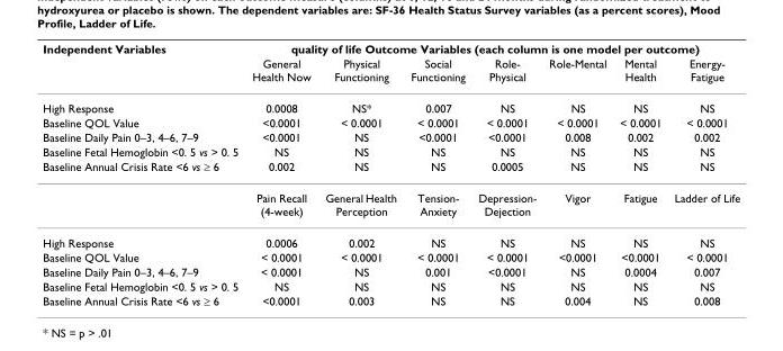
<table><thead><tr><td rowspan="2">Independent Variables</td><td colspan="7">quality of life Outcome Variables (each column is one model per outcome)</td></tr><tr><td>General Health Now</td><td>Physical Functioning</td><td>Social Functioning</td><td>Role- Physical</td><td>Role-Mental</td><td>Mental Health</td><td>Energy- Fatigue</td></tr></thead><tbody><tr><td>High Response</td><td>0.0008</td><td>NS*</td><td>0.007</td><td>NS</td><td>NS</td><td>NS</td><td>NS</td></tr><tr><td>Baseline QOL Value</td><td>&lt;0.0001</td><td>&lt; 0.0001</td><td>&lt; 0.0001</td><td>&lt; 0.0001</td><td>&lt; 0.0001</td><td>&lt; 0.0001</td><td>&lt; 0.0001</td></tr><tr><td>Baseline Daily Pain 0–3, 4–6, 7–9</td><td>&lt;0.0001</td><td>NS</td><td>&lt;0.0001</td><td>&lt;0.0001</td><td>0.008</td><td>0.002</td><td>0.002</td></tr><tr><td>Baseline Fetal Hemoglobin &lt;0. 5 vs &gt; 0. 5</td><td>NS</td><td>NS</td><td>NS</td><td>NS</td><td>NS</td><td>NS</td><td>NS</td></tr><tr><td rowspan="2">Baseline Annual Crisis Rate &lt;6 vs ≥ 6</td><td>0.002</td><td>NS</td><td>NS</td><td>0.0005</td><td>NS</td><td>NS</td><td>NS</td></tr><tr><td>Pain Recall (4-week)</td><td>General Health Perception</td><td>Tension- Anxiety</td><td>Depression- Dejection</td><td>Vigor</td><td>Fatigue</td><td>Ladder of Life</td></tr><tr><td>High Response</td><td>0.0006</td><td>0.002</td><td>NS</td><td>NS</td><td>NS</td><td>NS</td><td>NS</td></tr><tr><td>Baseline QOL Value</td><td>&lt; 0.0001</td><td>&lt; 0.0001</td><td>&lt; 0.0001</td><td>&lt; 0.0001</td><td>&lt;0.0001</td><td>&lt;0.0001</td><td>&lt; 0.0001</td></tr><tr><td>Baseline Daily Pain 0–3, 4–6, 7–9</td><td>&lt; 0.0001</td><td>NS</td><td>0.001</td><td>&lt;0.0001</td><td>NS</td><td>0.0004</td><td>0.007</td></tr><tr><td>Baseline Fetal Hemoglobin &lt;0. 5 vs &gt; 0. 5</td><td>NS</td><td>NS</td><td>NS</td><td>NS</td><td>NS</td><td>NS</td><td>NS</td></tr><tr><td>Baseline Annual Crisis Rate &lt;6 vs ≥ 6</td><td>&lt;0.0001</td><td>0.003</td><td>NS</td><td>NS</td><td>0.004</td><td>NS</td><td>0.008</td></tr></tbody></table>